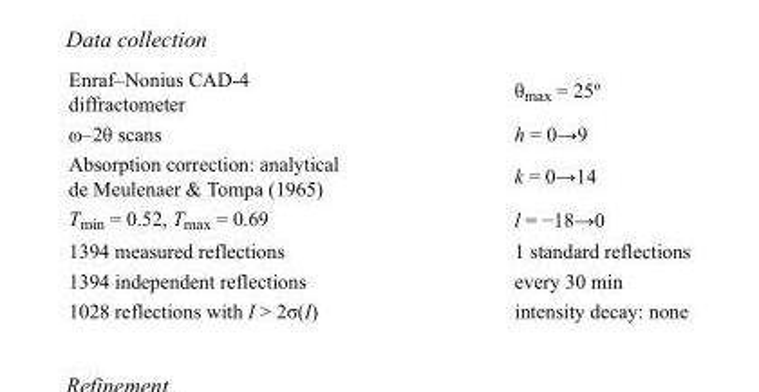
<table><tbody><tr><td>Enraf–Nonius CAD-4 diffractometer</td><td>θ<sub>max</sub> = 25º</td></tr><tr><td>ω–2θ scans</td><td>h = 0→9</td></tr><tr><td>Absorption correction: analytical de Meulenaer &amp; Tompa (1965)</td><td>k = 0→14</td></tr><tr><td>T<sub>min</sub> = 0.52, T<sub>max</sub> = 0.69</td><td>l = −18→0</td></tr><tr><td>1394 measured reflections</td><td>1 standard reflections</td></tr><tr><td>1394 independent reflections</td><td>every 30 min</td></tr><tr><td>1028 reflections with I &gt; 2σ(I)</td><td>intensity decay: none</td></tr></tbody></table>